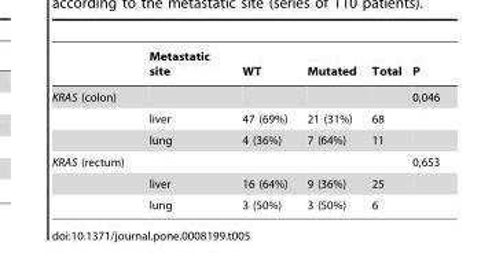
<table><thead><tr><td></td><td>Metastatic site</td><td>WT</td><td>Mutated</td><td>Total</td><td>P</td></tr></thead><tbody><tr><td rowspan="3">KRAS (colon)</td><td></td><td></td><td></td><td></td><td>0,046</td></tr><tr><td>liver</td><td>47 (69%)</td><td>21 (31%)</td><td>68</td><td></td></tr><tr><td>lung</td><td>4 (36%)</td><td>7 (64%)</td><td>11</td><td></td></tr><tr><td rowspan="3">KRAS (rectum)</td><td></td><td></td><td></td><td></td><td>0,653</td></tr><tr><td>liver</td><td>16 (64%)</td><td>9 (36%)</td><td>25</td><td></td></tr><tr><td>lung</td><td>3 (50%)</td><td>3 (50%)</td><td>6</td><td></td></tr></tbody></table>